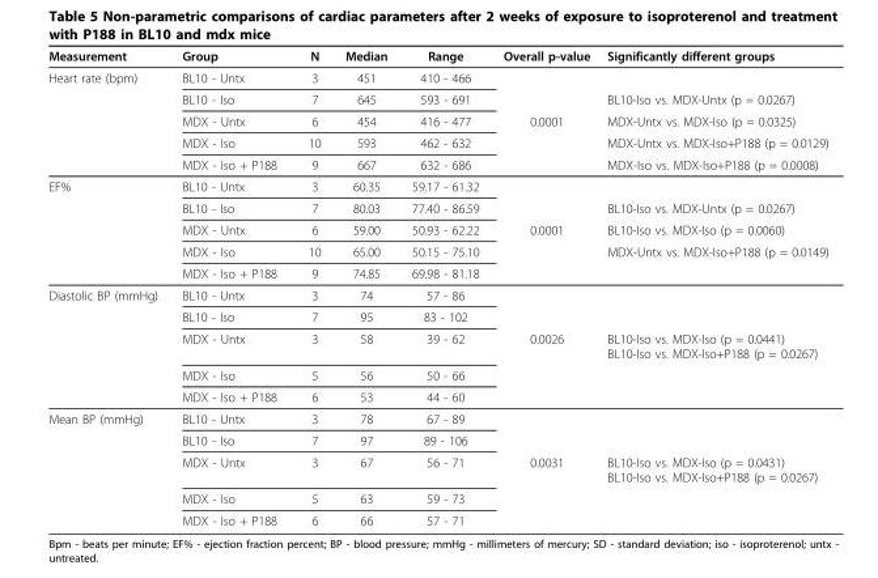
<table><thead><tr><td>Measurement</td><td>Group</td><td>N</td><td>Median</td><td>Range</td><td>Overall p-value</td><td>Significantly different groups</td></tr></thead><tbody><tr><td rowspan="5">Heart rate (bpm)</td><td>BL10 - Untx</td><td>3</td><td>451</td><td>410 - 466</td><td></td><td></td></tr><tr><td>BL10 - Iso</td><td>7</td><td>645</td><td>593 - 691</td><td></td><td>BL10-Iso vs. MDX-Untx (p = 0.0267)</td></tr><tr><td>MDX - Untx</td><td>6</td><td>454</td><td>416 - 477</td><td>0.0001</td><td>MDX-Untx vs. MDX-Iso (p = 0.0325)</td></tr><tr><td>MDX - Iso</td><td>10</td><td>593</td><td>462 - 632</td><td></td><td>MDX-Untx vs. MDX-Iso+P188 (p = 0.0129)</td></tr><tr><td>MDX - Iso + P188</td><td>9</td><td>667</td><td>632 - 686</td><td></td><td>MDX-Iso vs. MDX-Iso+P188 (p = 0.0008)</td></tr><tr><td rowspan="5">EF%</td><td>BL10 - Untx</td><td>3</td><td>60.35</td><td>59.17 - 61.32</td><td></td><td></td></tr><tr><td>BL10 - Iso</td><td>7</td><td>80.03</td><td>77.40 - 86.59</td><td></td><td>BL10-Iso vs. MDX-Untx (p = 0.0267)</td></tr><tr><td>MDX - Untx</td><td>6</td><td>59.00</td><td>50.93 - 62.22</td><td>0.0001</td><td>BL10-Iso vs. MDX-Iso (p = 0.0060)</td></tr><tr><td>MDX - Iso</td><td>10</td><td>65.00</td><td>50.15 - 75.10</td><td></td><td>MDX-Untx vs. MDX-Iso+P188 (p = 0.0149)</td></tr><tr><td>MDX - Iso + P188</td><td>9</td><td>74.85</td><td>69.98 - 81.18</td><td></td><td></td></tr><tr><td rowspan="5">Diastolic BP (mmHg)</td><td>BL10 - Untx</td><td>3</td><td>74</td><td>57 - 86</td><td></td><td></td></tr><tr><td>BL10 - Iso</td><td>7</td><td>95</td><td>83 - 102</td><td></td><td></td></tr><tr><td>MDX - Untx</td><td>3</td><td>58</td><td>39 - 62</td><td>0.0026</td><td>BL10-Iso vs. MDX-Iso (p = 0.0441) BL10-Iso vs. MDX-Iso+P188 (p = 0.0267)</td></tr><tr><td>MDX - Iso</td><td>5</td><td>56</td><td>50 - 66</td><td></td><td></td></tr><tr><td>MDX - Iso + P188</td><td>6</td><td>53</td><td>44 - 60</td><td></td><td></td></tr><tr><td rowspan="5">Mean BP (mmHg)</td><td>BL10 - Untx</td><td>3</td><td>78</td><td>67 - 89</td><td></td><td></td></tr><tr><td>BL10 - Iso</td><td>7</td><td>97</td><td>89 - 106</td><td></td><td></td></tr><tr><td>MDX - Untx</td><td>3</td><td>67</td><td>56 - 71</td><td>0.0031</td><td>BL10-Iso vs. MDX-Iso (p = 0.0431) BL10-Iso vs. MDX-Iso+P188 (p = 0.0267)</td></tr><tr><td>MDX - Iso</td><td>5</td><td>63</td><td>59 - 73</td><td></td><td></td></tr><tr><td>MDX - Iso + P188</td><td>6</td><td>66</td><td>57 - 71</td><td></td><td></td></tr></tbody></table>